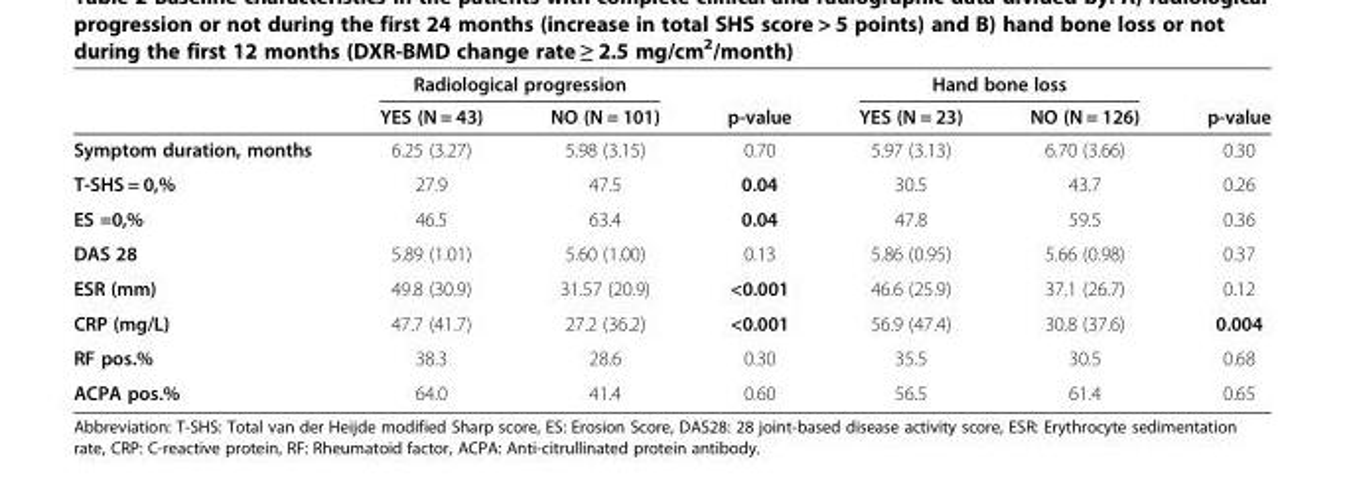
<table><thead><tr><td rowspan="2"></td><td colspan="2">Radiological progression</td><td rowspan="2">p-value</td><td colspan="2">Hand bone loss</td><td rowspan="2">p-value</td></tr><tr><td>YES (N = 43)</td><td>NO (N = 101)</td><td>YES (N = 23)</td><td>NO (N = 126)</td></tr></thead><tbody><tr><td>Symptom duration, months</td><td>6.25 (3.27)</td><td>5.98 (3.15)</td><td>0.70</td><td>5.97 (3.13)</td><td>6.70 (3.66)</td><td>0.30</td></tr><tr><td>T-SHS = 0,%</td><td>27.9</td><td>47.5</td><td>0.04</td><td>30.5</td><td>43.7</td><td>0.26</td></tr><tr><td>ES =0,%</td><td>46.5</td><td>63.4</td><td>0.04</td><td>47.8</td><td>59.5</td><td>0.36</td></tr><tr><td>DAS 28</td><td>5.89 (1.01)</td><td>5.60 (1.00)</td><td>0.13</td><td>5.86 (0.95)</td><td>5.66 (0.98)</td><td>0.37</td></tr><tr><td>ESR (mm)</td><td>49.8 (30.9)</td><td>31.57 (20.9)</td><td>&lt;0.001</td><td>46.6 (25.9)</td><td>37.1 (26.7)</td><td>0.12</td></tr><tr><td>CRP (mg/L)</td><td>47.7 (41.7)</td><td>27.2 (36.2)</td><td>&lt;0.001</td><td>56.9 (47.4)</td><td>30.8 (37.6)</td><td>0.004</td></tr><tr><td>RF pos.%</td><td>38.3</td><td>28.6</td><td>0.30</td><td>35.5</td><td>30.5</td><td>0.68</td></tr><tr><td>ACPA pos.%</td><td>64.0</td><td>41.4</td><td>0.60</td><td>56.5</td><td>61.4</td><td>0.65</td></tr></tbody></table>